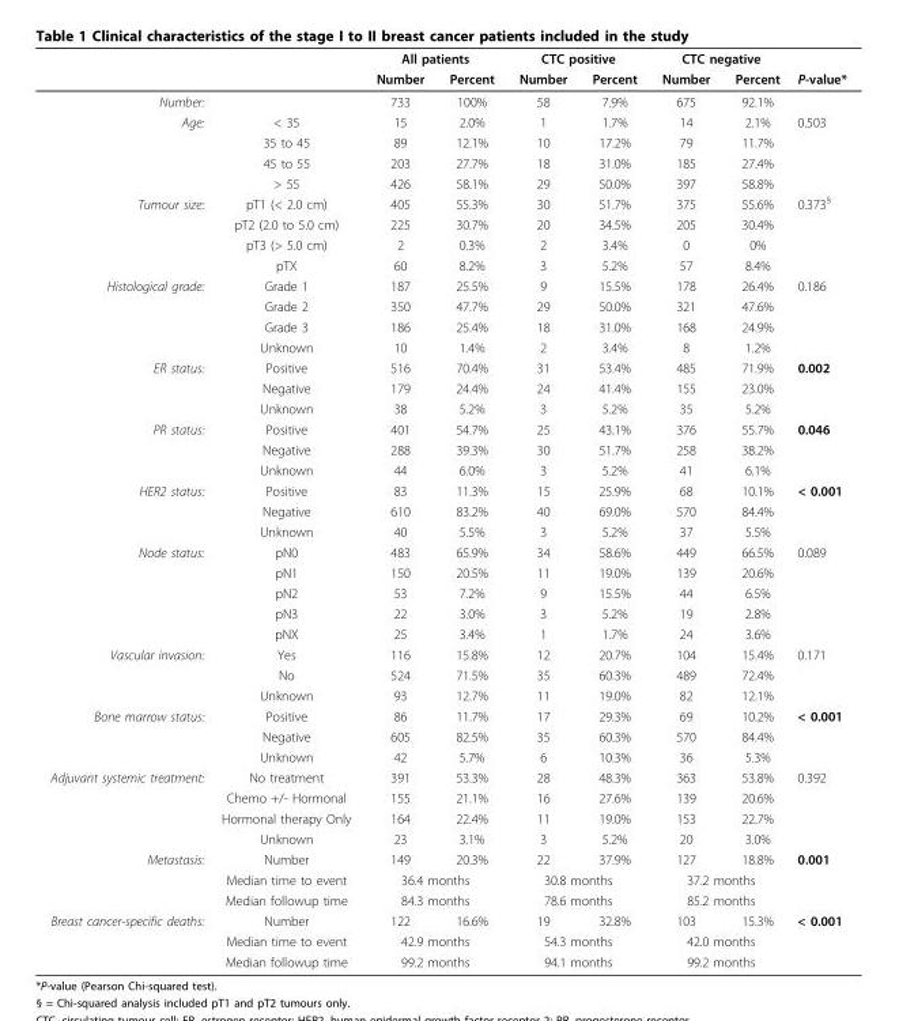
<table><thead><tr><td rowspan="2"></td><td rowspan="2"></td><td colspan="2">All patients</td><td colspan="2">CTC positive</td><td colspan="2">CTC negative</td><td rowspan="2">P-value*</td></tr><tr><td>Number</td><td>Percent</td><td>Number</td><td>Percent</td><td>Number</td><td>Percent</td></tr></thead><tbody><tr><td>Number:</td><td></td><td>733</td><td>100%</td><td>58</td><td>7.9%</td><td>675</td><td>92.1%</td><td></td></tr><tr><td rowspan="4">Age:</td><td>&lt; 35</td><td>15</td><td>2.0%</td><td>1</td><td>1.7%</td><td>14</td><td>2.1%</td><td>0.503</td></tr><tr><td>35 to 45</td><td>89</td><td>12.1%</td><td>10</td><td>17.2%</td><td>79</td><td>11.7%</td><td></td></tr><tr><td>45 to 55</td><td>203</td><td>27.7%</td><td>18</td><td>31.0%</td><td>185</td><td>27.4%</td><td></td></tr><tr><td>&gt; 55</td><td>426</td><td>58.1%</td><td>29</td><td>50.0%</td><td>397</td><td>58.8%</td><td></td></tr><tr><td rowspan="4">Tumour size:</td><td>pT1 (&lt; 2.0 cm)</td><td>405</td><td>55.3%</td><td>30</td><td>51.7%</td><td>375</td><td>55.6%</td><td>0.373<sup>§</sup></td></tr><tr><td>pT2 (2.0 to 5.0 cm)</td><td>225</td><td>30.7%</td><td>20</td><td>34.5%</td><td>205</td><td>30.4%</td><td></td></tr><tr><td>pT3 (&gt; 5.0 cm)</td><td>2</td><td>0.3%</td><td>2</td><td>3.4%</td><td>0</td><td>0%</td><td></td></tr><tr><td>pTX</td><td>60</td><td>8.2%</td><td>3</td><td>5.2%</td><td>57</td><td>8.4%</td><td></td></tr><tr><td rowspan="4">Histological grade:</td><td>Grade 1</td><td>187</td><td>25.5%</td><td>9</td><td>15.5%</td><td>178</td><td>26.4%</td><td>0.186</td></tr><tr><td>Grade 2</td><td>350</td><td>47.7%</td><td>29</td><td>50.0%</td><td>321</td><td>47.6%</td><td></td></tr><tr><td>Grade 3</td><td>186</td><td>25.4%</td><td>18</td><td>31.0%</td><td>168</td><td>24.9%</td><td></td></tr><tr><td>Unknown</td><td>10</td><td>1.4%</td><td>2</td><td>3.4%</td><td>8</td><td>1.2%</td><td></td></tr><tr><td rowspan="3">ER status:</td><td>Positive</td><td>516</td><td>70.4%</td><td>31</td><td>53.4%</td><td>485</td><td>71.9%</td><td>0.002</td></tr><tr><td>Negative</td><td>179</td><td>24.4%</td><td>24</td><td>41.4%</td><td>155</td><td>23.0%</td><td></td></tr><tr><td>Unknown</td><td>38</td><td>5.2%</td><td>3</td><td>5.2%</td><td>35</td><td>5.2%</td><td></td></tr><tr><td rowspan="3">PR status:</td><td>Positive</td><td>401</td><td>54.7%</td><td>25</td><td>43.1%</td><td>376</td><td>55.7%</td><td>0.046</td></tr><tr><td>Negative</td><td>288</td><td>39.3%</td><td>30</td><td>51.7%</td><td>258</td><td>38.2%</td><td></td></tr><tr><td>Unknown</td><td>44</td><td>6.0%</td><td>3</td><td>5.2%</td><td>41</td><td>6.1%</td><td></td></tr><tr><td rowspan="3">HER2 status:</td><td>Positive</td><td>83</td><td>11.3%</td><td>15</td><td>25.9%</td><td>68</td><td>10.1%</td><td>&lt; 0.001</td></tr><tr><td>Negative</td><td>610</td><td>83.2%</td><td>40</td><td>69.0%</td><td>570</td><td>84.4%</td><td></td></tr><tr><td>Unknown</td><td>40</td><td>5.5%</td><td>3</td><td>5.2%</td><td>37</td><td>5.5%</td><td></td></tr><tr><td rowspan="5">Node status:</td><td>pN0</td><td>483</td><td>65.9%</td><td>34</td><td>58.6%</td><td>449</td><td>66.5%</td><td>0.089</td></tr><tr><td>pN1</td><td>150</td><td>20.5%</td><td>11</td><td>19.0%</td><td>139</td><td>20.6%</td><td></td></tr><tr><td>pN2</td><td>53</td><td>7.2%</td><td>9</td><td>15.5%</td><td>44</td><td>6.5%</td><td></td></tr><tr><td>pN3</td><td>22</td><td>3.0%</td><td>3</td><td>5.2%</td><td>19</td><td>2.8%</td><td></td></tr><tr><td>pNX</td><td>25</td><td>3.4%</td><td>1</td><td>1.7%</td><td>24</td><td>3.6%</td><td></td></tr><tr><td rowspan="3">Vascular invasion:</td><td>Yes</td><td>116</td><td>15.8%</td><td>12</td><td>20.7%</td><td>104</td><td>15.4%</td><td>0.171</td></tr><tr><td>No</td><td>524</td><td>71.5%</td><td>35</td><td>60.3%</td><td>489</td><td>72.4%</td><td></td></tr><tr><td>Unknown</td><td>93</td><td>12.7%</td><td>11</td><td>19.0%</td><td>82</td><td>12.1%</td><td></td></tr><tr><td rowspan="3">Bone marrow status:</td><td>Positive</td><td>86</td><td>11.7%</td><td>17</td><td>29.3%</td><td>69</td><td>10.2%</td><td>&lt; 0.001</td></tr><tr><td>Negative</td><td>605</td><td>82.5%</td><td>35</td><td>60.3%</td><td>570</td><td>84.4%</td><td></td></tr><tr><td>Unknown</td><td>42</td><td>5.7%</td><td>6</td><td>10.3%</td><td>36</td><td>5.3%</td><td></td></tr><tr><td rowspan="4">Adjuvant systemic treatment:</td><td>No treatment</td><td>391</td><td>53.3%</td><td>28</td><td>48.3%</td><td>363</td><td>53.8%</td><td>0.392</td></tr><tr><td>Chemo +/- Hormonal</td><td>155</td><td>21.1%</td><td>16</td><td>27.6%</td><td>139</td><td>20.6%</td><td></td></tr><tr><td>Hormonal therapy Only</td><td>164</td><td>22.4%</td><td>11</td><td>19.0%</td><td>153</td><td>22.7%</td><td></td></tr><tr><td>Unknown</td><td>23</td><td>3.1%</td><td>3</td><td>5.2%</td><td>20</td><td>3.0%</td><td></td></tr><tr><td rowspan="3">Metastasis:</td><td>Number</td><td>149</td><td>20.3%</td><td>22</td><td>37.9%</td><td>127</td><td>18.8%</td><td>0.001</td></tr><tr><td>Median time to event</td><td colspan="2">36.4 months</td><td colspan="2">30.8 months</td><td colspan="2">37.2 months</td><td></td></tr><tr><td>Median followup time</td><td colspan="2">84.3 months</td><td colspan="2">78.6 months</td><td colspan="2">85.2 months</td><td></td></tr><tr><td rowspan="3">Breast cancer-specific deaths:</td><td>Number</td><td>122</td><td>16.6%</td><td>19</td><td>32.8%</td><td>103</td><td>15.3%</td><td>&lt; 0.001</td></tr><tr><td>Median time to event</td><td colspan="2">42.9 months</td><td colspan="2">54.3 months</td><td colspan="2">42.0 months</td><td></td></tr><tr><td>Median followup time</td><td colspan="2">99.2 months</td><td colspan="2">94.1 months</td><td colspan="2">99.2 months</td><td></td></tr></tbody></table>